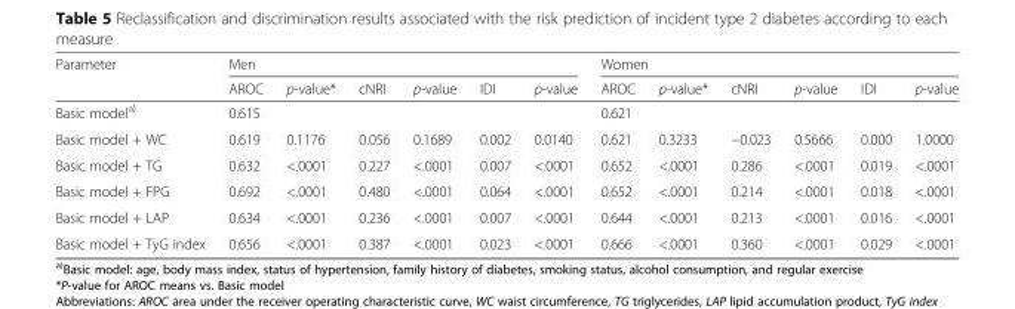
<table><thead><tr><td rowspan="2">Parameter</td><td colspan="6">Men</td><td colspan="6">Women</td></tr><tr><td>AROC</td><td>p-value*</td><td>cNRI</td><td>p-value</td><td>IDI</td><td>p-value</td><td>AROC</td><td>p-value*</td><td>cNRI</td><td>p-value</td><td>IDI</td><td>p-value</td></tr></thead><tbody><tr><td>Basic model<sup>a)</sup></td><td>0.615</td><td></td><td></td><td></td><td></td><td></td><td>0.621</td><td></td><td></td><td></td><td></td><td></td></tr><tr><td>Basic model + WC</td><td>0.619</td><td>0.1176</td><td>0.056</td><td>0.1689</td><td>0.002</td><td>0.0140</td><td>0.621</td><td>0.3233</td><td>−0.023</td><td>0.5666</td><td>0.000</td><td>1.0000</td></tr><tr><td>Basic model + TG</td><td>0.632</td><td>&lt;.0001</td><td>0.227</td><td>&lt;.0001</td><td>0.007</td><td>&lt;.0001</td><td>0.652</td><td>&lt;.0001</td><td>0.286</td><td>&lt;.0001</td><td>0.019</td><td>&lt;.0001</td></tr><tr><td>Basic model + FPG</td><td>0.692</td><td>&lt;.0001</td><td>0.480</td><td>&lt;.0001</td><td>0.064</td><td>&lt;.0001</td><td>0.652</td><td>&lt;.0001</td><td>0.214</td><td>&lt;.0001</td><td>0.018</td><td>&lt;.0001</td></tr><tr><td>Basic model + LAP</td><td>0.634</td><td>&lt;.0001</td><td>0.236</td><td>&lt;.0001</td><td>0.007</td><td>&lt;.0001</td><td>0.644</td><td>&lt;.0001</td><td>0.213</td><td>&lt;.0001</td><td>0.016</td><td>&lt;.0001</td></tr><tr><td>Basic model + TyG index</td><td>0.656</td><td>&lt;.0001</td><td>0.387</td><td>&lt;.0001</td><td>0.023</td><td>&lt;.0001</td><td>0.666</td><td>&lt;.0001</td><td>0.360</td><td>&lt;.0001</td><td>0.029</td><td>&lt;.0001</td></tr></tbody></table>